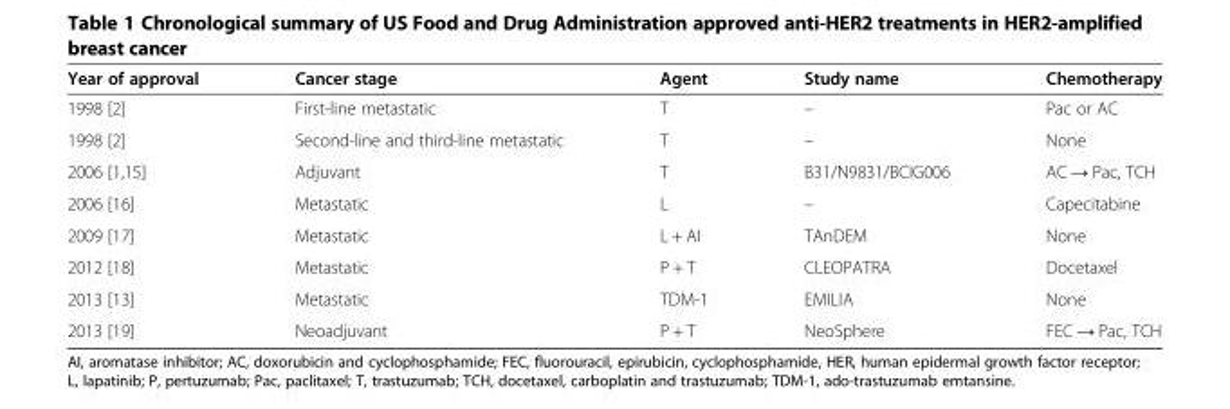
<table><thead><tr><td>Year of approval</td><td>Cancer stage</td><td>Agent</td><td>Study name</td><td>Chemotherapy</td></tr></thead><tbody><tr><td>1998 [2]</td><td>First-line metastatic</td><td>T</td><td>–</td><td>Pac or AC</td></tr><tr><td>1998 [2]</td><td>Second-line and third-line metastatic</td><td>T</td><td>–</td><td>None</td></tr><tr><td>2006 [1,15]</td><td>Adjuvant</td><td>T</td><td>B31/N9831/BCIG006</td><td>AC → Pac, TCH</td></tr><tr><td>2006 [16]</td><td>Metastatic</td><td>L</td><td>–</td><td>Capecitabine</td></tr><tr><td>2009 [17]</td><td>Metastatic</td><td>L + AI</td><td>TAnDEM</td><td>None</td></tr><tr><td>2012 [18]</td><td>Metastatic</td><td>P + T</td><td>CLEOPATRA</td><td>Docetaxel</td></tr><tr><td>2013 [13]</td><td>Metastatic</td><td>TDM-1</td><td>EMILIA</td><td>None</td></tr><tr><td>2013 [19]</td><td>Neoadjuvant</td><td>P + T</td><td>NeoSphere</td><td>FEC → Pac, TCH</td></tr></tbody></table>